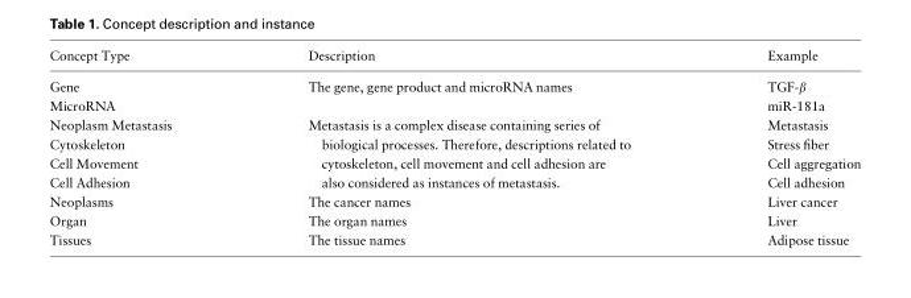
<table><thead><tr><td>Concept Type</td><td>Description</td><td>Example</td></tr></thead><tbody><tr><td>Gene</td><td rowspan="2">The gene, gene product and microRNA names</td><td>TGF-β</td></tr><tr><td>MicroRNA</td><td>miR-181a</td></tr><tr><td>Neoplasm Metastasis</td><td rowspan="4">Metastasis is a complex disease containing series of biological processes. Therefore, descriptions related to cytoskeleton, cell movement and cell adhesion are also considered as instances of metastasis.</td><td>Metastasis</td></tr><tr><td>Cytoskeleton</td><td>Stress fiber</td></tr><tr><td>Cell Movement</td><td>Cell aggregation</td></tr><tr><td>Cell Adhesion</td><td>Cell adhesion</td></tr><tr><td>Neoplasms</td><td>The cancer names</td><td>Liver cancer</td></tr><tr><td>Organ</td><td>The organ names</td><td>Liver</td></tr><tr><td>Tissues</td><td>The tissue names</td><td>Adipose tissue</td></tr></tbody></table>